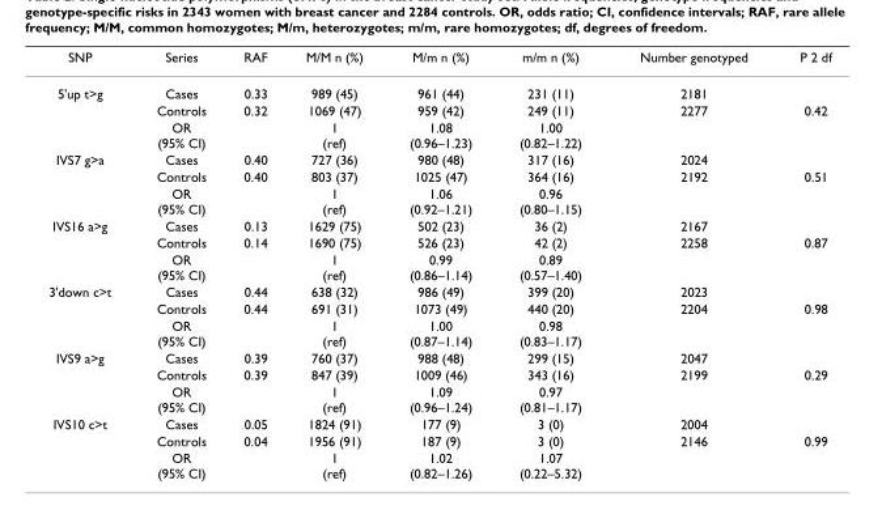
<table><thead><tr><td>SNP</td><td>Series</td><td>RAF</td><td>M/M n (%)</td><td>M/m n (%)</td><td>m/m n (%)</td><td>Number genotyped</td><td>P 2 df</td></tr></thead><tbody><tr><td rowspan="3">5&#x27;up t&gt;g</td><td>Cases</td><td>0.33</td><td>989 (45)</td><td>961 (44)</td><td>231 (11)</td><td>2181</td><td></td></tr><tr><td>Controls</td><td>0.32</td><td>1069 (47)</td><td>959 (42)</td><td>249 (11)</td><td>2277</td><td>0.42</td></tr><tr><td>OR (95% CI)</td><td></td><td>1 (ref)</td><td>1.08 (0.96–1.23)</td><td>1.00 (0.82–1.22)</td><td></td><td></td></tr><tr><td rowspan="3">IVS7 g&gt;a</td><td>Cases</td><td>0.40</td><td>727 (36)</td><td>980 (48)</td><td>317 (16)</td><td>2024</td><td></td></tr><tr><td>Controls</td><td>0.40</td><td>803 (37)</td><td>1025 (47)</td><td>364 (16)</td><td>2192</td><td>0.51</td></tr><tr><td>OR (95% CI)</td><td></td><td>1 (ref)</td><td>1.06 (0.92–1.21)</td><td>0.96 (0.80–1.15)</td><td></td><td></td></tr><tr><td rowspan="3">IVS16 a&gt;g</td><td>Cases</td><td>0.13</td><td>1629 (75)</td><td>502 (23)</td><td>36 (2)</td><td>2167</td><td></td></tr><tr><td>Controls</td><td>0.14</td><td>1690 (75)</td><td>526 (23)</td><td>42 (2)</td><td>2258</td><td>0.87</td></tr><tr><td>OR (95% CI)</td><td></td><td>1 (ref)</td><td>0.99 (0.86–1.14)</td><td>0.89 (0.57–1.40)</td><td></td><td></td></tr><tr><td rowspan="3">3&#x27;down c&gt;t</td><td>Cases</td><td>0.44</td><td>638 (32)</td><td>986 (49)</td><td>399 (20)</td><td>2023</td><td></td></tr><tr><td>Controls</td><td>0.44</td><td>691 (31)</td><td>1073 (49)</td><td>440 (20)</td><td>2204</td><td>0.98</td></tr><tr><td>OR (95% CI)</td><td></td><td>1 (ref)</td><td>1.00 (0.87–1.14)</td><td>0.98 (0.83–1.17)</td><td></td><td></td></tr><tr><td rowspan="3">IVS9 a&gt;g</td><td>Cases</td><td>0.39</td><td>760 (37)</td><td>988 (48)</td><td>299 (15)</td><td>2047</td><td></td></tr><tr><td>Controls</td><td>0.39</td><td>847 (39)</td><td>1009 (46)</td><td>343 (16)</td><td>2199</td><td>0.29</td></tr><tr><td>OR (95% CI)</td><td></td><td>1 (ref)</td><td>1.09 (0.96–1.24)</td><td>0.97 (0.81–1.17)</td><td></td><td></td></tr><tr><td rowspan="3">IVS10 c&gt;t</td><td>Cases</td><td>0.05</td><td>1824 (91)</td><td>177 (9)</td><td>3 (0)</td><td>2004</td><td></td></tr><tr><td>Controls</td><td>0.04</td><td>1956 (91)</td><td>187 (9)</td><td>3 (0)</td><td>2146</td><td>0.99</td></tr><tr><td>OR (95% CI)</td><td></td><td>1 (ref)</td><td>1.02 (0.82–1.26)</td><td>1.07 (0.22–5.32)</td><td></td><td></td></tr></tbody></table>